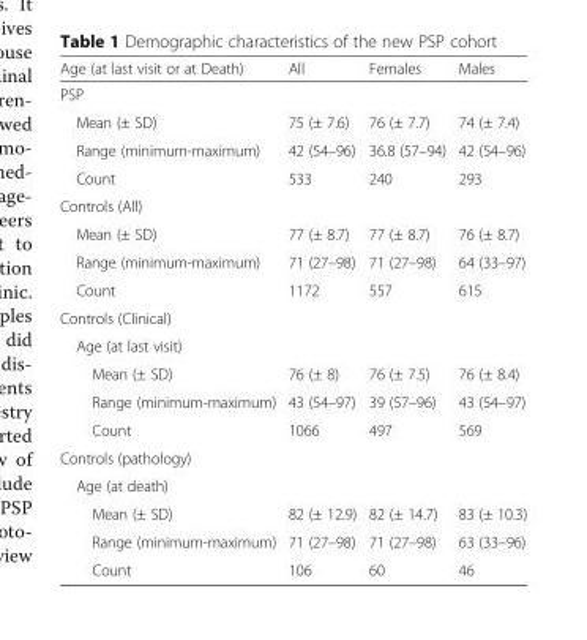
<table><thead><tr><td>Age (at last visit or at Death)</td><td>All</td><td>Females</td><td>Males</td></tr></thead><tbody><tr><td colspan="4">PSP</td></tr><tr><td>Mean (± SD)</td><td>75 (± 7.6)</td><td>76 (± 7.7)</td><td>74 (± 7.4)</td></tr><tr><td>Range (minimum-maximum)</td><td>42 (54–96)</td><td>36.8 (57–94)</td><td>42 (54–96)</td></tr><tr><td>Count</td><td>533</td><td>240</td><td>293</td></tr><tr><td colspan="4">Controls (All)</td></tr><tr><td>Mean (± SD)</td><td>77 (± 8.7)</td><td>77 (± 8.7)</td><td>76 (± 8.7)</td></tr><tr><td>Range (minimum-maximum)</td><td>71 (27–98)</td><td>71 (27–98)</td><td>64 (33–97)</td></tr><tr><td>Count</td><td>1172</td><td>557</td><td>615</td></tr><tr><td colspan="4">Controls (Clinical)</td></tr><tr><td colspan="4">Age (at last visit)</td></tr><tr><td>Mean (± SD)</td><td>76 (± 8)</td><td>76 (± 7.5)</td><td>76 (± 8.4)</td></tr><tr><td>Range (minimum-maximum)</td><td>43 (54–97)</td><td>39 (57–96)</td><td>43 (54–97)</td></tr><tr><td>Count</td><td>1066</td><td>497</td><td>569</td></tr><tr><td colspan="4">Controls (pathology)</td></tr><tr><td colspan="4">Age (at death)</td></tr><tr><td>Mean (± SD)</td><td>82 (± 12.9)</td><td>82 (± 14.7)</td><td>83 (± 10.3)</td></tr><tr><td>Range (minimum-maximum)</td><td>71 (27–98)</td><td>71 (27–98)</td><td>63 (33–96)</td></tr><tr><td>Count</td><td>106</td><td>60</td><td>46</td></tr></tbody></table>